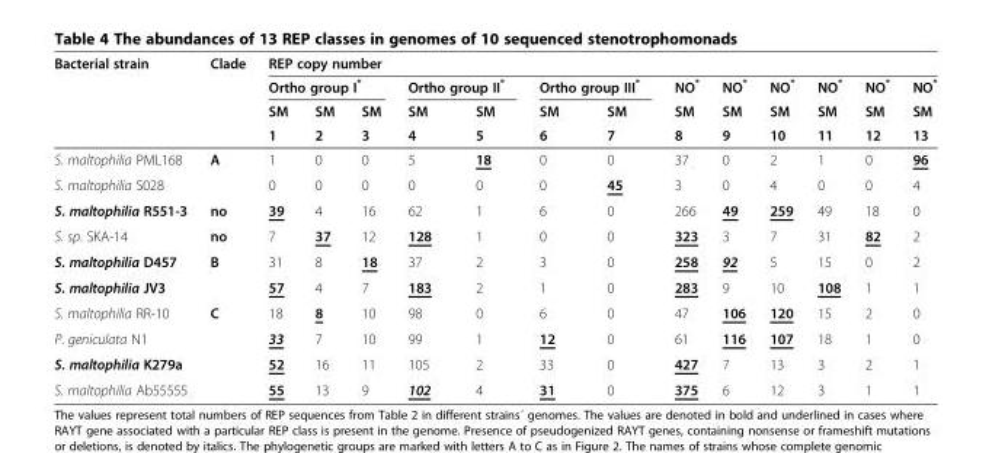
<table><thead><tr><td rowspan="4">Bacterial strain</td><td rowspan="4">Clade</td><td colspan="13">REP copy number</td></tr><tr><td colspan="3">Ortho group I*</td><td colspan="2">Ortho group II*</td><td colspan="2">Ortho group III*</td><td rowspan="3">NO* SM 8</td><td rowspan="3">NO* SM 9</td><td rowspan="3">NO* SM 10</td><td rowspan="3">NO* SM 11</td><td rowspan="3">NO* SM 12</td><td rowspan="3">NO* SM 13</td></tr><tr><td rowspan="2">SM 1</td><td rowspan="2">SM 2</td><td rowspan="2">SM 3</td><td rowspan="2">SM 4</td><td rowspan="2">SM 5</td><td rowspan="2">SM 6</td><td rowspan="2">SM 7</td></tr><tr></tr></thead><tbody><tr><td>S. maltophilia PML168</td><td rowspan="2">A</td><td>1</td><td>0</td><td>0</td><td>5</td><td>18</td><td>0</td><td>0</td><td>37</td><td>0</td><td>2</td><td>1</td><td>0</td><td>96</td></tr><tr><td>S. maltophilia S028</td><td>0</td><td>0</td><td>0</td><td>0</td><td>0</td><td>0</td><td>45</td><td>3</td><td>0</td><td>4</td><td>0</td><td>0</td><td>4</td></tr><tr><td>S. maltophilia R551-3</td><td>no</td><td>39</td><td>4</td><td>16</td><td>62</td><td>1</td><td>6</td><td>0</td><td>266</td><td>49</td><td>259</td><td>49</td><td>18</td><td>0</td></tr><tr><td>S. sp. SKA-14</td><td>no</td><td>7</td><td>37</td><td>12</td><td>128</td><td>1</td><td>0</td><td>0</td><td>323</td><td>3</td><td>7</td><td>31</td><td>82</td><td>2</td></tr><tr><td>S. maltophilia D457</td><td rowspan="2">B</td><td>31</td><td>8</td><td>18</td><td>37</td><td>2</td><td>3</td><td>0</td><td>258</td><td>92</td><td>5</td><td>15</td><td>0</td><td>2</td></tr><tr><td>S. maltophilia JV3</td><td>57</td><td>4</td><td>7</td><td>183</td><td>2</td><td>1</td><td>0</td><td>283</td><td>9</td><td>10</td><td>108</td><td>1</td><td>1</td></tr><tr><td>S. maltophilia RR-10</td><td rowspan="4">C</td><td>18</td><td>8</td><td>10</td><td>98</td><td>0</td><td>6</td><td>0</td><td>47</td><td>106</td><td>120</td><td>15</td><td>2</td><td>0</td></tr><tr><td>P. geniculata N1</td><td>33</td><td>7</td><td>10</td><td>99</td><td>1</td><td>12</td><td>0</td><td>61</td><td>116</td><td>107</td><td>18</td><td>1</td><td>0</td></tr><tr><td>S. maltophilia K279a</td><td>52</td><td>16</td><td>11</td><td>105</td><td>2</td><td>33</td><td>0</td><td>427</td><td>7</td><td>13</td><td>3</td><td>2</td><td>1</td></tr><tr><td>S. maltophilia Ab55555</td><td>55</td><td>13</td><td>9</td><td>102</td><td>4</td><td>31</td><td>0</td><td>375</td><td>6</td><td>12</td><td>3</td><td>1</td><td>1</td></tr></tbody></table>